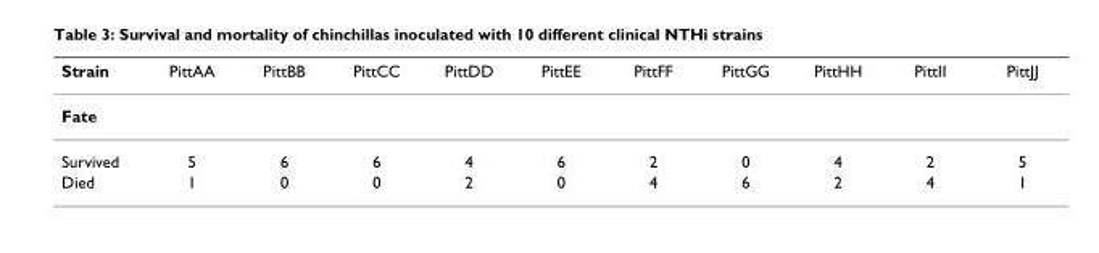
<table><thead><tr><td>Strain</td><td>PittAA</td><td>PittBB</td><td>PittCC</td><td>PittDD</td><td>PittEE</td><td>PittFF</td><td>PittGG</td><td>PittHH</td><td>PittII</td><td>PittJJ</td></tr></thead><tbody><tr><td colspan="11">Fate</td></tr><tr><td>Survived</td><td>5</td><td>6</td><td>6</td><td>4</td><td>6</td><td>2</td><td>0</td><td>4</td><td>2</td><td>5</td></tr><tr><td>Died</td><td>1</td><td>0</td><td>0</td><td>2</td><td>0</td><td>4</td><td>6</td><td>2</td><td>4</td><td>1</td></tr></tbody></table>